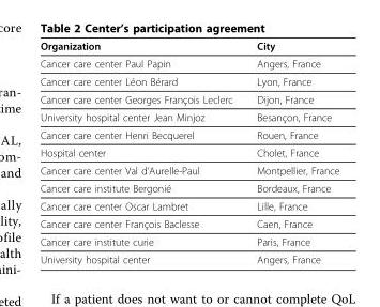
<table><thead><tr><td>Organization</td><td>City</td></tr></thead><tbody><tr><td>Cancer care center Paul Papin</td><td>Angers, France</td></tr><tr><td>Cancer care center Léon Bérard</td><td>Lyon, France</td></tr><tr><td>Cancer care center Georges François Leclerc</td><td>Dijon, France</td></tr><tr><td>University hospital center Jean Minjoz</td><td>Besançon, France</td></tr><tr><td>Cancer care center Henri Becquerel</td><td>Rouen, France</td></tr><tr><td>Hospital center</td><td>Cholet, France</td></tr><tr><td>Cancer care center Val d’Aurelle-Paul</td><td>Montpellier, France</td></tr><tr><td>Cancer care institute Bergonié</td><td>Bordeaux, France</td></tr><tr><td>Cancer care center Oscar Lambret</td><td>Lille, France</td></tr><tr><td>Cancer care center François Baclesse</td><td>Caen, France</td></tr><tr><td>Cancer care institute curie</td><td>Paris, France</td></tr><tr><td>University hospital center</td><td>Angers, France</td></tr></tbody></table>